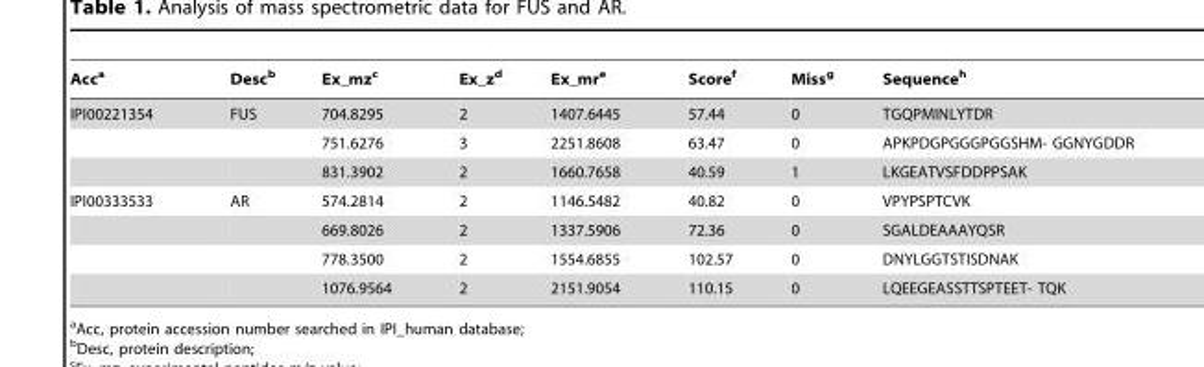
<table><thead><tr><td>Acc<sup>a</sup></td><td>Desc<sup>b</sup></td><td>Ex_mz<sup>c</sup></td><td>Ex_z<sup>d</sup></td><td>Ex_mr<sup>e</sup></td><td>Score<sup>f</sup></td><td>Miss<sup>g</sup></td><td>Sequence<sup>h</sup></td></tr></thead><tbody><tr><td rowspan="3">IPI00221354</td><td>FUS</td><td>704.8295</td><td>2</td><td>1407.6445</td><td>57.44</td><td>0</td><td>TGQPMINLYTDR</td></tr><tr><td></td><td>751.6276</td><td>3</td><td>2251.8608</td><td>63.47</td><td>0</td><td>APKPDGPGGGPGGSHM- GGNYGDDR</td></tr><tr><td></td><td>831.3902</td><td>2</td><td>1660.7658</td><td>40.59</td><td>1</td><td>LKGEATVSFDDPPSAK</td></tr><tr><td rowspan="4">IPI00333533</td><td>AR</td><td>574.2814</td><td>2</td><td>1146.5482</td><td>40.82</td><td>0</td><td>VPYPSPTCVK</td></tr><tr><td></td><td>669.8026</td><td>2</td><td>1337.5906</td><td>72.36</td><td>0</td><td>SGALDEAAAYQSR</td></tr><tr><td></td><td>778.3500</td><td>2</td><td>1554.6855</td><td>102.57</td><td>0</td><td>DNYLGGTSTISDNAK</td></tr><tr><td></td><td>1076.9564</td><td>2</td><td>2151.9054</td><td>110.15</td><td>0</td><td>LQEEGEASSTTSPTEET- TQK</td></tr></tbody></table>